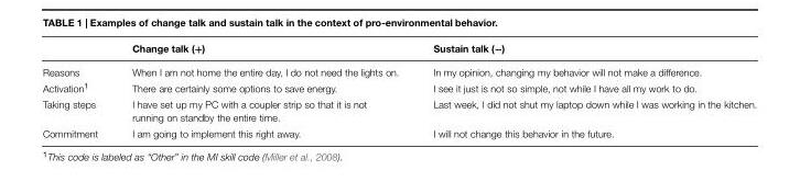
<table><thead><tr><td></td><td>Change talk (+)</td><td>Sustain talk (−)</td></tr></thead><tbody><tr><td>Reasons</td><td>When I am not home the entire day, I do not need the lights on.</td><td>In my opinion, changing my behavior will not make a difference.</td></tr><tr><td>Activation<sup>1</sup></td><td>There are certainly some options to save energy.</td><td>I see it just is not so simple, not while I have all my work to do.</td></tr><tr><td>Taking steps</td><td>I have set up my PC with a coupler strip so that it is not running on standby the entire time.</td><td>Last week, I did not shut my laptop down while I was working in the kitchen.</td></tr><tr><td>Commitment</td><td>I am going to implement this right away.</td><td>I will not change this behavior in the future.</td></tr></tbody></table>